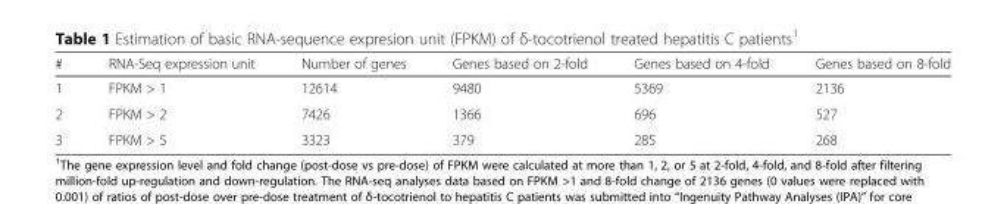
<table><thead><tr><td>#</td><td>RNA-Seq expression unit</td><td>Number of genes</td><td>Genes based on 2-fold</td><td>Genes based on 4-fold</td><td>Genes based on 8-fold</td></tr></thead><tbody><tr><td>1</td><td>FPKM &gt; 1</td><td>12614</td><td>9480</td><td>5369</td><td>2136</td></tr><tr><td>2</td><td>FPKM &gt; 2</td><td>7426</td><td>1366</td><td>696</td><td>527</td></tr><tr><td>3</td><td>FPKM &gt; 5</td><td>3323</td><td>379</td><td>285</td><td>268</td></tr></tbody></table>